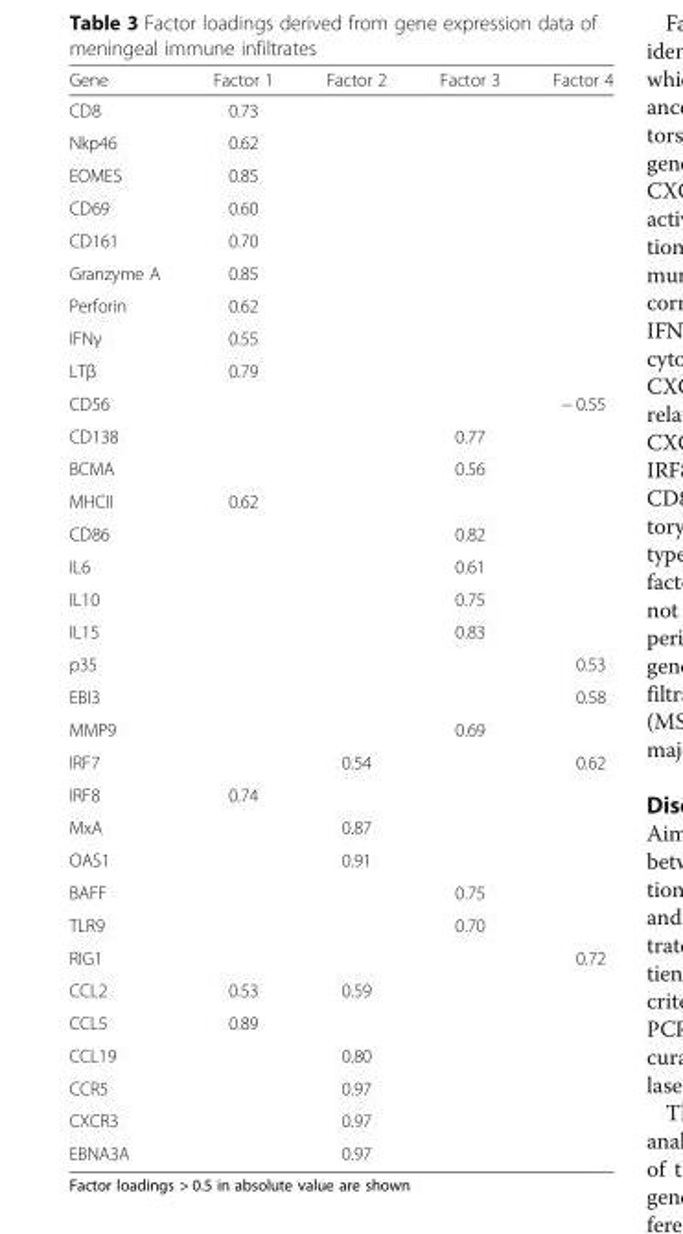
<table><thead><tr><td>Gene</td><td>Factor 1</td><td>Factor 2</td><td>Factor 3</td><td>Factor 4</td></tr></thead><tbody><tr><td>CD8</td><td>0.73</td><td></td><td></td><td></td></tr><tr><td>Nkp46</td><td>0.62</td><td></td><td></td><td></td></tr><tr><td>EOMES</td><td>0.85</td><td></td><td></td><td></td></tr><tr><td>CD69</td><td>0.60</td><td></td><td></td><td></td></tr><tr><td>CD161</td><td>0.70</td><td></td><td></td><td></td></tr><tr><td>Granzyme A</td><td>0.85</td><td></td><td></td><td></td></tr><tr><td>Perforin</td><td>0.62</td><td></td><td></td><td></td></tr><tr><td>IFNγ</td><td>0.55</td><td></td><td></td><td></td></tr><tr><td>LTβ</td><td>0.79</td><td></td><td></td><td></td></tr><tr><td>CD56</td><td></td><td></td><td></td><td>− 0.55</td></tr><tr><td>CD138</td><td></td><td></td><td>0.77</td><td></td></tr><tr><td>BCMA</td><td></td><td></td><td>0.56</td><td></td></tr><tr><td>MHCII</td><td>0.62</td><td></td><td></td><td></td></tr><tr><td>CD86</td><td></td><td></td><td>0.82</td><td></td></tr><tr><td>IL6</td><td></td><td></td><td>0.61</td><td></td></tr><tr><td>IL10</td><td></td><td></td><td>0.75</td><td></td></tr><tr><td>IL15</td><td></td><td></td><td>0.83</td><td></td></tr><tr><td>p35</td><td></td><td></td><td></td><td>0.53</td></tr><tr><td>EBI3</td><td></td><td></td><td></td><td>0.58</td></tr><tr><td>MMP9</td><td></td><td></td><td>0.69</td><td></td></tr><tr><td>IRF7</td><td></td><td>0.54</td><td></td><td>0.62</td></tr><tr><td>IRF8</td><td>0.74</td><td></td><td></td><td></td></tr><tr><td>MxA</td><td></td><td>0.87</td><td></td><td></td></tr><tr><td>OAS1</td><td></td><td>0.91</td><td></td><td></td></tr><tr><td>BAFF</td><td></td><td></td><td>0.75</td><td></td></tr><tr><td>TLR9</td><td></td><td></td><td>0.70</td><td></td></tr><tr><td>RIG1</td><td></td><td></td><td></td><td>0.72</td></tr><tr><td>CCL2</td><td>0.53</td><td>0.59</td><td></td><td></td></tr><tr><td>CCL5</td><td>0.89</td><td></td><td></td><td></td></tr><tr><td>CCL19</td><td></td><td>0.80</td><td></td><td></td></tr><tr><td>CCR5</td><td></td><td>0.97</td><td></td><td></td></tr><tr><td>CXCR3</td><td></td><td>0.97</td><td></td><td></td></tr><tr><td>EBNA3A</td><td></td><td>0.97</td><td></td><td></td></tr></tbody></table>